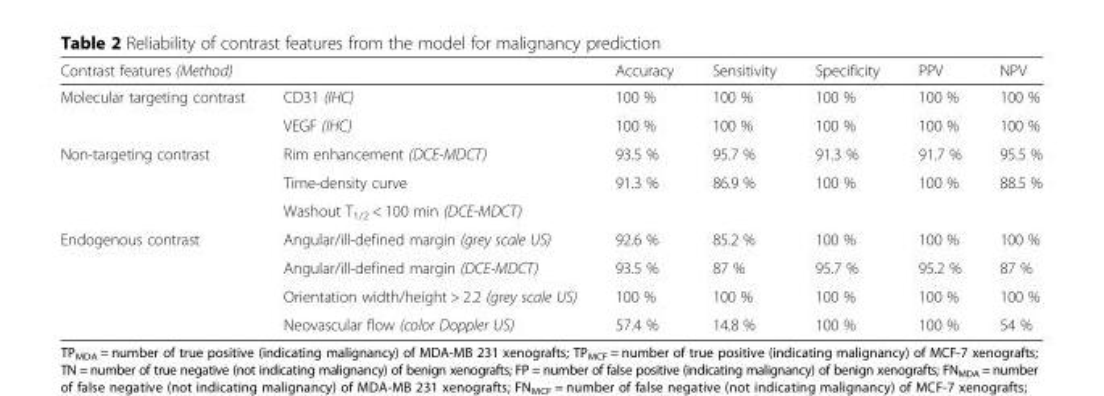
<table><thead><tr><td>Contrast features (Method)</td><td></td><td>Accuracy</td><td>Sensitivity</td><td>Specificity</td><td>PPV</td><td>NPV</td></tr></thead><tbody><tr><td rowspan="2">Molecular targeting contrast</td><td>CD31 (IHC)</td><td>100 %</td><td>100 %</td><td>100 %</td><td>100 %</td><td>100 %</td></tr><tr><td>VEGF (IHC)</td><td>100 %</td><td>100 %</td><td>100 %</td><td>100 %</td><td>100 %</td></tr><tr><td rowspan="3">Non-targeting contrast</td><td>Rim enhancement (DCE-MDCT)</td><td>93.5 %</td><td>95.7 %</td><td>91.3 %</td><td>91.7 %</td><td>95.5 %</td></tr><tr><td>Time-density curve</td><td rowspan="2">91.3 %</td><td rowspan="2">86.9 %</td><td rowspan="2">100 %</td><td rowspan="2">100 %</td><td rowspan="2">88.5 %</td></tr><tr><td>Washout T<sub>1/2</sub> &lt; 100 min (DCE-MDCT)</td></tr><tr><td rowspan="4">Endogenous contrast</td><td>Angular/ill-defined margin (grey scale US)</td><td>92.6 %</td><td>85.2 %</td><td>100 %</td><td>100 %</td><td>100 %</td></tr><tr><td>Angular/ill-defined margin (DCE-MDCT)</td><td>93.5 %</td><td>87 %</td><td>95.7 %</td><td>95.2 %</td><td>87 %</td></tr><tr><td>Orientation width/height &gt; 2.2 (grey scale US)</td><td>100 %</td><td>100 %</td><td>100 %</td><td>100 %</td><td>100 %</td></tr><tr><td>Neovascular flow (color Doppler US)</td><td>57.4 %</td><td>14.8 %</td><td>100 %</td><td>100 %</td><td>54 %</td></tr></tbody></table>